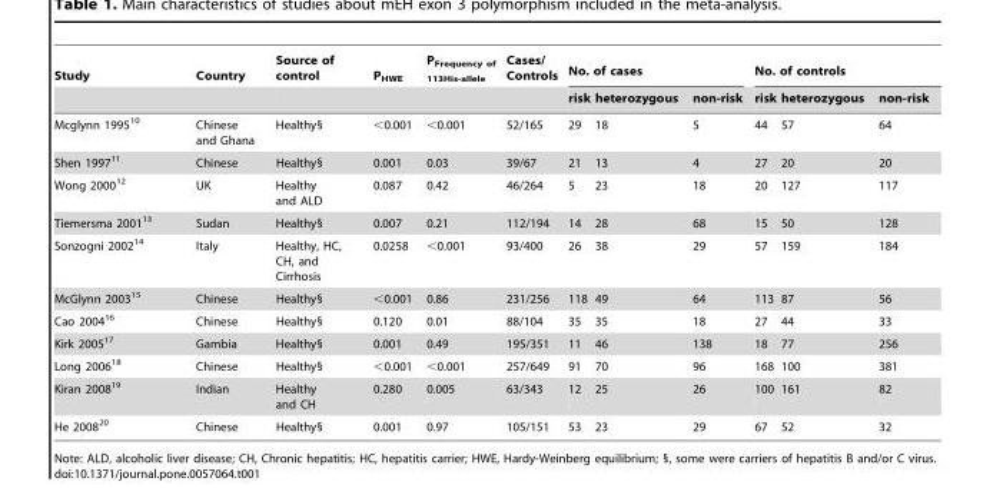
<table><thead><tr><td rowspan="2">Study</td><td rowspan="2">Country</td><td rowspan="2">Source of control</td><td rowspan="2">P<sub>HWE</sub></td><td rowspan="2">P<sub>Frequency of 113His-allele</sub></td><td rowspan="2">Cases/ Controls</td><td colspan="3">No. of cases</td><td colspan="3">No. of controls</td></tr><tr><td>risk</td><td>heterozygous</td><td>non-risk</td><td>risk</td><td>heterozygous</td><td>non-risk</td></tr></thead><tbody><tr><td>Mcglynn 1995<sup>10</sup></td><td>Chinese and Ghana</td><td>Healthy§</td><td>&lt;0.001</td><td>&lt;0.001</td><td>52/165</td><td>29</td><td>18</td><td>5</td><td>44</td><td>57</td><td>64</td></tr><tr><td>Shen 1997<sup>11</sup></td><td>Chinese</td><td>Healthy§</td><td>0.001</td><td>0.03</td><td>39/67</td><td>21</td><td>13</td><td>4</td><td>27</td><td>20</td><td>20</td></tr><tr><td>Wong 2000<sup>12</sup></td><td>UK</td><td>Healthy and ALD</td><td>0.087</td><td>0.42</td><td>46/264</td><td>5</td><td>23</td><td>18</td><td>20</td><td>127</td><td>117</td></tr><tr><td>Tiemersma 2001<sup>13</sup></td><td>Sudan</td><td>Healthy§</td><td>0.007</td><td>0.21</td><td>112/194</td><td>14</td><td>28</td><td>68</td><td>15</td><td>50</td><td>128</td></tr><tr><td>Sonzogni 2002<sup>14</sup></td><td>Italy</td><td>Healthy, HC, CH, and Cirrhosis</td><td>0.0258</td><td>&lt;0.001</td><td>93/400</td><td>26</td><td>38</td><td>29</td><td>57</td><td>159</td><td>184</td></tr><tr><td>McGlynn 2003<sup>15</sup></td><td>Chinese</td><td>Healthy§</td><td>&lt;0.001</td><td>0.86</td><td>231/256</td><td>118</td><td>49</td><td>64</td><td>113</td><td>87</td><td>56</td></tr><tr><td>Cao 2004<sup>16</sup></td><td>Chinese</td><td>Healthy§</td><td>0.120</td><td>0.01</td><td>88/104</td><td>35</td><td>35</td><td>18</td><td>27</td><td>44</td><td>33</td></tr><tr><td>Kirk 2005<sup>17</sup></td><td>Gambia</td><td>Healthy§</td><td>0.001</td><td>0.49</td><td>195/351</td><td>11</td><td>46</td><td>138</td><td>18</td><td>77</td><td>256</td></tr><tr><td>Long 2006<sup>18</sup></td><td>Chinese</td><td>Healthy§</td><td>&lt;0.001</td><td>&lt;0.001</td><td>257/649</td><td>91</td><td>70</td><td>96</td><td>168</td><td>100</td><td>381</td></tr><tr><td>Kiran 2008<sup>19</sup></td><td>Indian</td><td>Healthy and CH</td><td>0.280</td><td>0.005</td><td>63/343</td><td>12</td><td>25</td><td>26</td><td>100</td><td>161</td><td>82</td></tr><tr><td>He 2008<sup>20</sup></td><td>Chinese</td><td>Healthy§</td><td>0.001</td><td>0.97</td><td>105/151</td><td>53</td><td>23</td><td>29</td><td>67</td><td>52</td><td>32</td></tr></tbody></table>